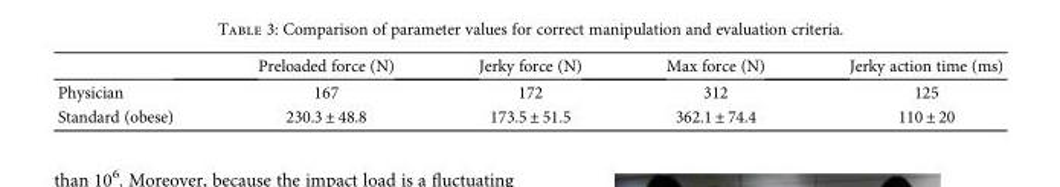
<table><thead><tr><td></td><td>Preloaded force (N)</td><td>Jerky force (N)</td><td>Max force (N)</td><td>Jerky action time (ms)</td></tr></thead><tbody><tr><td>Physician</td><td>167</td><td>172</td><td>312</td><td>125</td></tr><tr><td>Standard (obese)</td><td>230.3 ± 48.8</td><td>173.5 ± 51.5</td><td>362.1 ± 74.4</td><td>110 ± 20</td></tr></tbody></table>